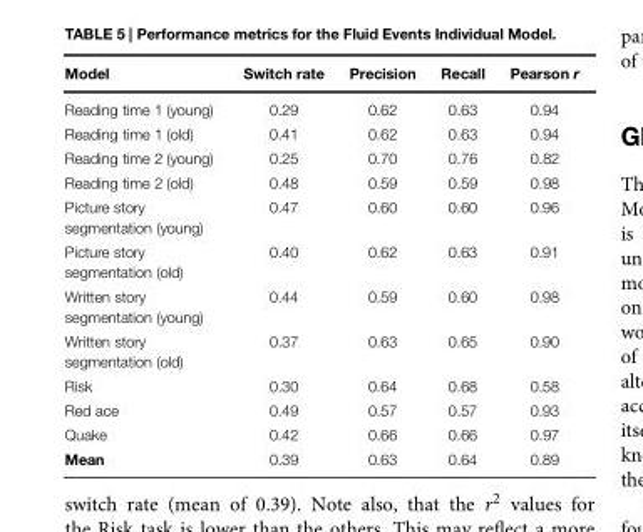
<table><thead><tr><td>Model</td><td>Switch rate</td><td>Precision</td><td>Recall</td><td>Pearson r</td></tr></thead><tbody><tr><td>Reading time 1 (young)</td><td>0.29</td><td>0.62</td><td>0.63</td><td>0.94</td></tr><tr><td>Reading time 1 (old)</td><td>0.41</td><td>0.62</td><td>0.63</td><td>0.94</td></tr><tr><td>Reading time 2 (young)</td><td>0.25</td><td>0.70</td><td>0.76</td><td>0.82</td></tr><tr><td>Reading time 2 (old)</td><td>0.48</td><td>0.59</td><td>0.59</td><td>0.98</td></tr><tr><td>Picture story segmentation (young)</td><td>0.47</td><td>0.60</td><td>0.60</td><td>0.96</td></tr><tr><td>Picture story segmentation (old)</td><td>0.40</td><td>0.62</td><td>0.63</td><td>0.91</td></tr><tr><td>Written story segmentation (young)</td><td>0.44</td><td>0.59</td><td>0.60</td><td>0.98</td></tr><tr><td>Written story segmentation (old)</td><td>0.37</td><td>0.63</td><td>0.65</td><td>0.90</td></tr><tr><td>Risk</td><td>0.30</td><td>0.64</td><td>0.68</td><td>0.58</td></tr><tr><td>Red ace</td><td>0.49</td><td>0.57</td><td>0.57</td><td>0.93</td></tr><tr><td>Quake</td><td>0.42</td><td>0.66</td><td>0.66</td><td>0.97</td></tr><tr><td>Mean</td><td>0.39</td><td>0.63</td><td>0.64</td><td>0.89</td></tr></tbody></table>